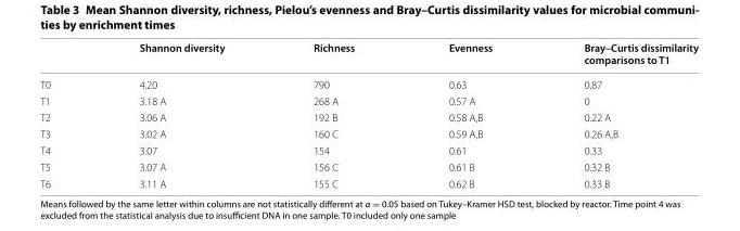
<table><thead><tr><td></td><td>Shannon diversity</td><td>Richness</td><td>Evenness</td><td>Bray–Curtis dissimilarity comparisons to T1</td></tr></thead><tbody><tr><td>T0</td><td>4.20</td><td>790</td><td>0.63</td><td>0.87</td></tr><tr><td>T1</td><td>3.18 A</td><td>268 A</td><td>0.57 A</td><td>0</td></tr><tr><td>T2</td><td>3.06 A</td><td>192 B</td><td>0.58 A,B</td><td>0.22 A</td></tr><tr><td>T3</td><td>3.02 A</td><td>160 C</td><td>0.59 A,B</td><td>0.26 A,B</td></tr><tr><td>T4</td><td>3.07</td><td>154</td><td>0.61</td><td>0.33</td></tr><tr><td>T5</td><td>3.07 A</td><td>156 C</td><td>0.61 B</td><td>0.32 B</td></tr><tr><td>T6</td><td>3.11 A</td><td>155 C</td><td>0.62 B</td><td>0.33 B</td></tr></tbody></table>